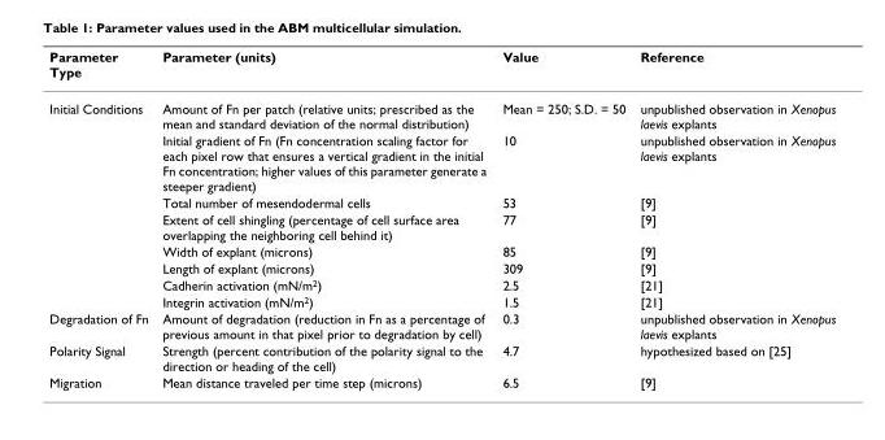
<table><thead><tr><td>Parameter Type</td><td>Parameter (units)</td><td>Value</td><td>Reference</td></tr></thead><tbody><tr><td rowspan="8">Initial Conditions</td><td>Amount of Fn per patch (relative units; prescribed as the mean and standard deviation of the normal distribution)</td><td>Mean = 250; S.D. = 50</td><td>unpublished observation in Xenopus laevis explants</td></tr><tr><td>Initial gradient of Fn (Fn concentration scaling factor for each pixel row that ensures a vertical gradient in the initial Fn concentration; higher values of this parameter generate a steeper gradient)</td><td>10</td><td>unpublished observation in Xenopus laevis explants</td></tr><tr><td>Total number of mesendodermal cells</td><td>53</td><td>[9]</td></tr><tr><td>Extent of cell shingling (percentage of cell surface area overlapping the neighboring cell behind it)</td><td>77</td><td>[9]</td></tr><tr><td>Width of explant (microns)</td><td>85</td><td>[9]</td></tr><tr><td>Length of explant (microns)</td><td>309</td><td>[9]</td></tr><tr><td>Cadherin activation (mN/m<sup>2</sup>)</td><td>2.5</td><td>[21]</td></tr><tr><td>Integrin activation (mN/m<sup>2</sup>)</td><td>1.5</td><td>[21]</td></tr><tr><td>Degradation of Fn</td><td>Amount of degradation (reduction in Fn as a percentage of previous amount in that pixel prior to degradation by cell)</td><td>0.3</td><td>unpublished observation in Xenopus laevis explants</td></tr><tr><td>Polarity Signal</td><td>Strength (percent contribution of the polarity signal to the direction or heading of the cell)</td><td>4.7</td><td>hypothesized based on [25]</td></tr><tr><td>Migration</td><td>Mean distance traveled per time step (microns)</td><td>6.5</td><td>[9]</td></tr></tbody></table>